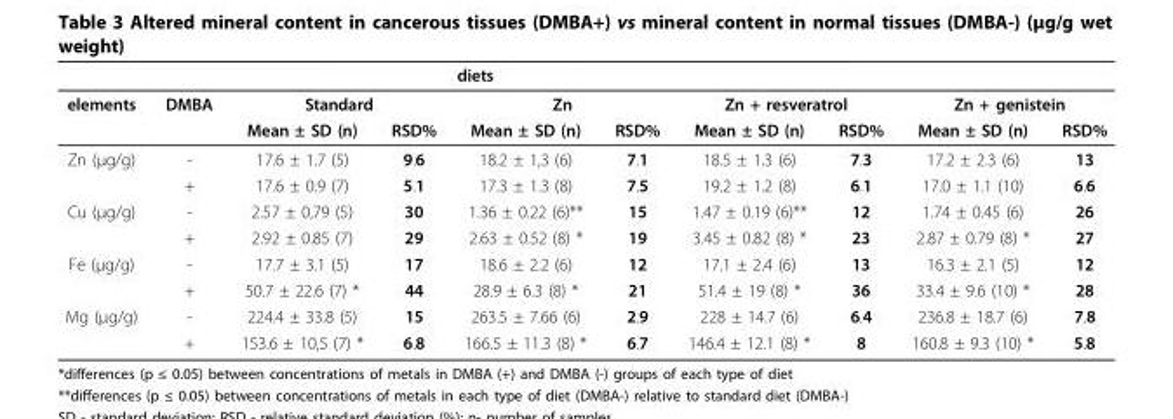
<table><thead><tr><td rowspan="3">elements</td><td rowspan="3">DMBA</td><td></td><td></td><td rowspan="2" colspan="2">diets Zn</td><td></td><td></td><td></td><td></td></tr><tr><td colspan="2">Standard</td><td colspan="2">Zn + resveratrol</td><td colspan="2">Zn + genistein</td></tr><tr><td>Mean ± SD (n)</td><td>RSD%</td><td>Mean ± SD (n)</td><td>RSD%</td><td>Mean ± SD (n)</td><td>RSD%</td><td>Mean ± SD (n)</td><td>RSD%</td></tr></thead><tbody><tr><td rowspan="2">Zn (μg/g)</td><td>-</td><td>17.6 ± 1.7 (5)</td><td>9.6</td><td>18.2 ± 1,3 (6)</td><td>7.1</td><td>18.5 ± 1.3 (6)</td><td>7.3</td><td>17.2 ± 2.3 (6)</td><td>13</td></tr><tr><td>+</td><td>17.6 ± 0.9 (7)</td><td>5.1</td><td>17.3 ± 1.3 (8)</td><td>7.5</td><td>19.2 ± 1.2 (8)</td><td>6.1</td><td>17.0 ± 1.1 (10)</td><td>6.6</td></tr><tr><td rowspan="2">Cu (μg/g)</td><td>-</td><td>2.57 ± 0,79 (5)</td><td>30</td><td>1.36 ± 0.22 (6)**</td><td>15</td><td>1.47 ± 0.19 (6)**</td><td>12</td><td>1.74 ± 0.45 (6)</td><td>26</td></tr><tr><td>+</td><td>2.92 ± 0.85 (7)</td><td>29</td><td>2.63 ± 0.52 (8) *</td><td>19</td><td>3.45 ± 0.82 (8) *</td><td>23</td><td>2.87 ± 0.79 (8) *</td><td>27</td></tr><tr><td rowspan="2">Fe (μg/g)</td><td>-</td><td>17.7 ± 3.1 (5)</td><td>17</td><td>18.6 ± 2.2 (6)</td><td>12</td><td>17.1 ± 2.4 (6)</td><td>13</td><td>16.3 ± 2.1 (5)</td><td>12</td></tr><tr><td>+</td><td>50.7 ± 22.6 (7) *</td><td>44</td><td>28.9 ± 6.3 (8) *</td><td>21</td><td>51.4 ± 19 (8) *</td><td>36</td><td>33.4 ± 9.6 (10) *</td><td>28</td></tr><tr><td rowspan="2">Mg (μg/g)</td><td>-</td><td>224.4 ± 33.8 (5)</td><td>15</td><td>263.5 ± 7.66 (6)</td><td>2.9</td><td>228 ± 14.7 (6)</td><td>6.4</td><td>236.8 ± 18.7 (6)</td><td>7.8</td></tr><tr><td>+</td><td>153.6 ± 10,5 (7) *</td><td>6.8</td><td>166.5 ± 11.3 (8) *</td><td>6.7</td><td>146.4 ± 12.1 (8) *</td><td>8</td><td>160.8 ± 9.3 (10) *</td><td>5.8</td></tr></tbody></table>